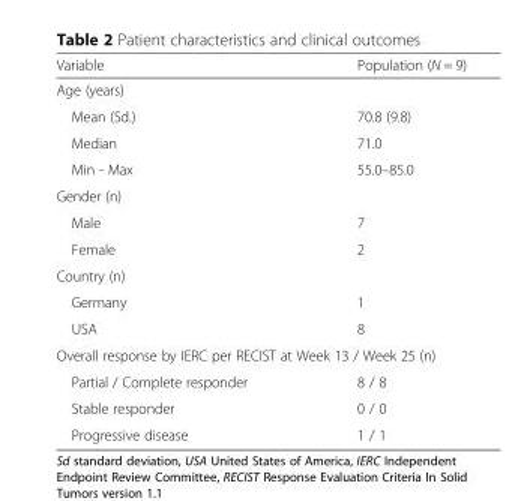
<table><thead><tr><td>Variable</td><td>Population (N = 9)</td></tr></thead><tbody><tr><td colspan="2">Age (years)</td></tr><tr><td>Mean (Sd.)</td><td>70.8 (9.8)</td></tr><tr><td>Median</td><td>71.0</td></tr><tr><td>Min - Max</td><td>55.0–85.0</td></tr><tr><td colspan="2">Gender (n)</td></tr><tr><td>Male</td><td>7</td></tr><tr><td>Female</td><td>2</td></tr><tr><td colspan="2">Country (n)</td></tr><tr><td>Germany</td><td>1</td></tr><tr><td>USA</td><td>8</td></tr><tr><td colspan="2">Overall response by IERC per RECIST at Week 13 / Week 25 (n)</td></tr><tr><td>Partial / Complete responder</td><td>8 / 8</td></tr><tr><td>Stable responder</td><td>0 / 0</td></tr><tr><td>Progressive disease</td><td>1 / 1</td></tr></tbody></table>